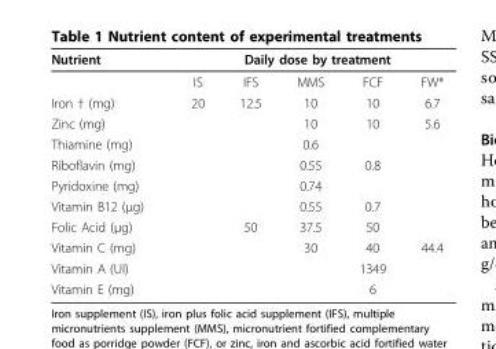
<table><thead><tr><td rowspan="2">Nutrient</td><td colspan="5">Daily dose by treatment</td></tr><tr><td>IS</td><td>IFS</td><td>MMS</td><td>FCF</td><td>FW*</td></tr></thead><tbody><tr><td>Iron † (mg)</td><td>20</td><td>12.5</td><td>10</td><td>10</td><td>6.7</td></tr><tr><td>Zinc (mg)</td><td></td><td></td><td>10</td><td>10</td><td>5.6</td></tr><tr><td>Thiamine (mg)</td><td></td><td></td><td>0.6</td><td></td><td></td></tr><tr><td>Riboflavin (mg)</td><td></td><td></td><td>0.55</td><td>0.8</td><td></td></tr><tr><td>Pyridoxine (mg)</td><td></td><td></td><td>0.74</td><td></td><td></td></tr><tr><td>Vitamin B12 (μg)</td><td></td><td></td><td>0.55</td><td>0.7</td><td></td></tr><tr><td>Folic Acid (μg)</td><td></td><td>50</td><td>37.5</td><td>50</td><td></td></tr><tr><td>Vitamin C (mg)</td><td></td><td></td><td>30</td><td>40</td><td>44.4</td></tr><tr><td>Vitamin A (UI)</td><td></td><td></td><td></td><td>1349</td><td></td></tr><tr><td>Vitamin E (mg)</td><td></td><td></td><td></td><td>6</td><td></td></tr></tbody></table>